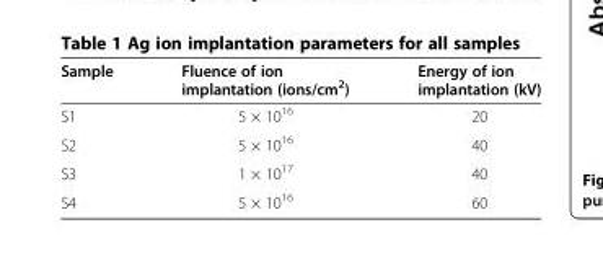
<table><thead><tr><td>Sample</td><td>Fluence of ion implantation (ions/cm<sup>2</sup>)</td><td>Energy of ion implantation (kV)</td></tr></thead><tbody><tr><td>S1</td><td>5 × 10<sup>16</sup></td><td>20</td></tr><tr><td>S2</td><td>5 × 10<sup>16</sup></td><td>40</td></tr><tr><td>S3</td><td>1 × 10<sup>17</sup></td><td>40</td></tr><tr><td>S4</td><td>5 × 10<sup>16</sup></td><td>60</td></tr></tbody></table>